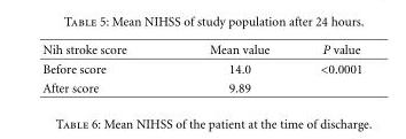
<table><thead><tr><td>Nih stroke score</td><td>Mean value</td><td>P value</td></tr></thead><tbody><tr><td>Before score</td><td>14.0</td><td>&lt;0.0001</td></tr><tr><td>After score</td><td>9.89</td><td></td></tr></tbody></table>